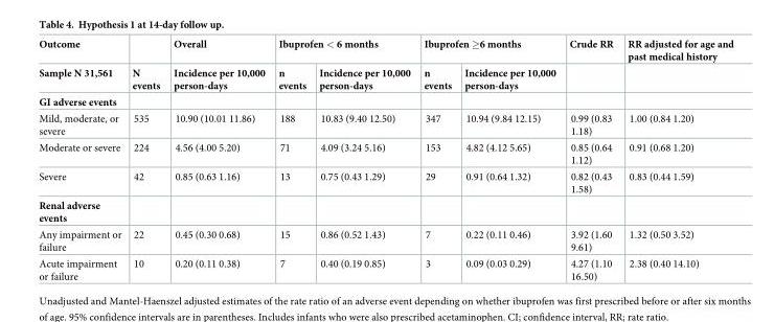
<table><thead><tr><td rowspan="2">Outcome Sample N 31,561</td><td rowspan="2">N events</td><td rowspan="2">Overall Incidence per 10,000 person-days</td><td colspan="2">Ibuprofen &lt; 6 months</td><td colspan="2">Ibuprofen ≥6 months</td><td rowspan="2">Crude RR</td><td rowspan="2">RR adjusted for age and past medical history</td></tr><tr><td>n events</td><td>Incidence per 10,000 person-days</td><td>n events</td><td>Incidence per 10,000 person-days</td></tr></thead><tbody><tr><td colspan="9">GI adverse events</td></tr><tr><td>Mild, moderate, or severe</td><td>535</td><td>10.90 (10.01 11.86)</td><td>188</td><td>10.83 (9.40 12.50)</td><td>347</td><td>10.94 (9.84 12.15)</td><td>0.99 (0.83 1.18)</td><td>1.00 (0.84 1.20)</td></tr><tr><td>Moderate or severe</td><td>224</td><td>4.56 (4.00 5.20)</td><td>71</td><td>4.09 (3.24 5.16)</td><td>153</td><td>4.82 (4.12 5.65)</td><td>0.85 (0.64 1.12)</td><td>0.91 (0.68 1.20)</td></tr><tr><td>Severe</td><td>42</td><td>0.85 (0.63 1.16)</td><td>13</td><td>0.75 (0.43 1.29)</td><td>29</td><td>0.91 (0.64 1.32)</td><td>0.82 (0.43 1.58)</td><td>0.83 (0.44 1.59)</td></tr><tr><td colspan="9">Renal adverse events</td></tr><tr><td>Any impairment or failure</td><td>22</td><td>0.45 (0.30 0.68)</td><td>15</td><td>0.86 (0.52 1.43)</td><td>7</td><td>0.22 (0.11 0.46)</td><td>3.92 (1.60 9.61)</td><td>1.32 (0.50 3.52)</td></tr><tr><td>Acute impairment or failure</td><td>10</td><td>0.20 (0.11 0.38)</td><td>7</td><td>0.40 (0.19 0.85)</td><td>3</td><td>0.09 (0.03 0.29)</td><td>4.27 (1.10 16.50)</td><td>2.38 (0.40 14.10)</td></tr></tbody></table>